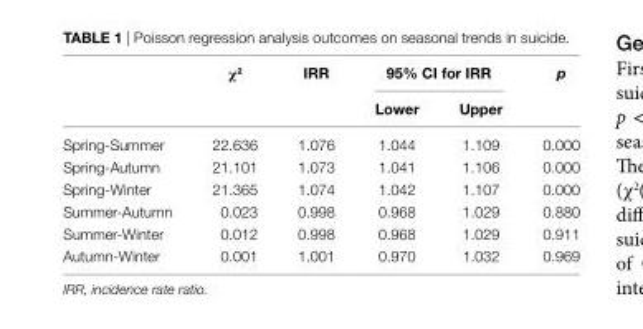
<table><thead><tr><td rowspan="2"></td><td rowspan="2">χ<sup>2</sup></td><td rowspan="2">irr</td><td colspan="2">95% ci for irr</td><td rowspan="2">p</td></tr><tr><td>lower</td><td>Upper</td></tr></thead><tbody><tr><td>Spring-Summer</td><td>22.636</td><td>1.076</td><td>1.044</td><td>1.109</td><td>0.000</td></tr><tr><td>Spring-Autumn</td><td>21.101</td><td>1.073</td><td>1.041</td><td>1.106</td><td>0.000</td></tr><tr><td>Spring-Winter</td><td>21.365</td><td>1.074</td><td>1.042</td><td>1.107</td><td>0.000</td></tr><tr><td>Summer-Autumn</td><td>0.023</td><td>0.998</td><td>0.968</td><td>1.029</td><td>0.880</td></tr><tr><td>Summer-Winter</td><td>0.012</td><td>0.998</td><td>0.968</td><td>1.029</td><td>0.911</td></tr><tr><td>Autumn-Winter</td><td>0.001</td><td>1.001</td><td>0.970</td><td>1.032</td><td>0.969</td></tr></tbody></table>